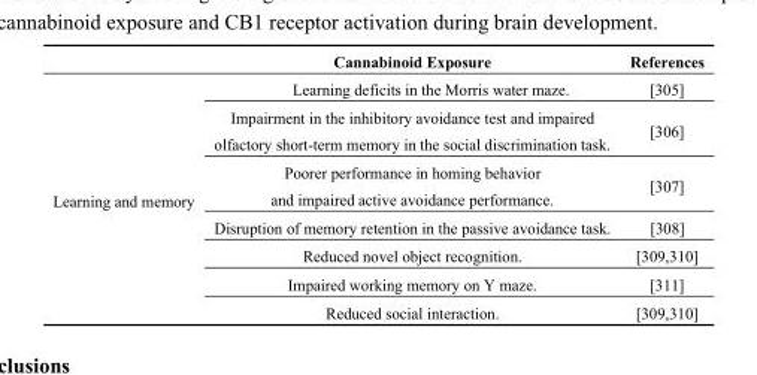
<table><thead><tr><td></td><td>Cannabinoid Exposure</td><td>References</td></tr></thead><tbody><tr><td rowspan="7">Learning and memory</td><td>Learning deficits in the Morris water maze.</td><td>[305]</td></tr><tr><td>Impairment in the inhibitory avoidance test and impaired olfactory short-term memory in the social discrimination task.</td><td>[306]</td></tr><tr><td>Poorer performance in homing behavior and impaired active avoidance performance.</td><td>[307]</td></tr><tr><td>Disruption of memory retention in the passive avoidance task.</td><td>[308]</td></tr><tr><td>Reduced novel object recognition.</td><td>[309,310]</td></tr><tr><td>Impaired working memory on Y maze.</td><td>[311]</td></tr><tr><td>Reduced social interaction.</td><td>[309,310]</td></tr></tbody></table>